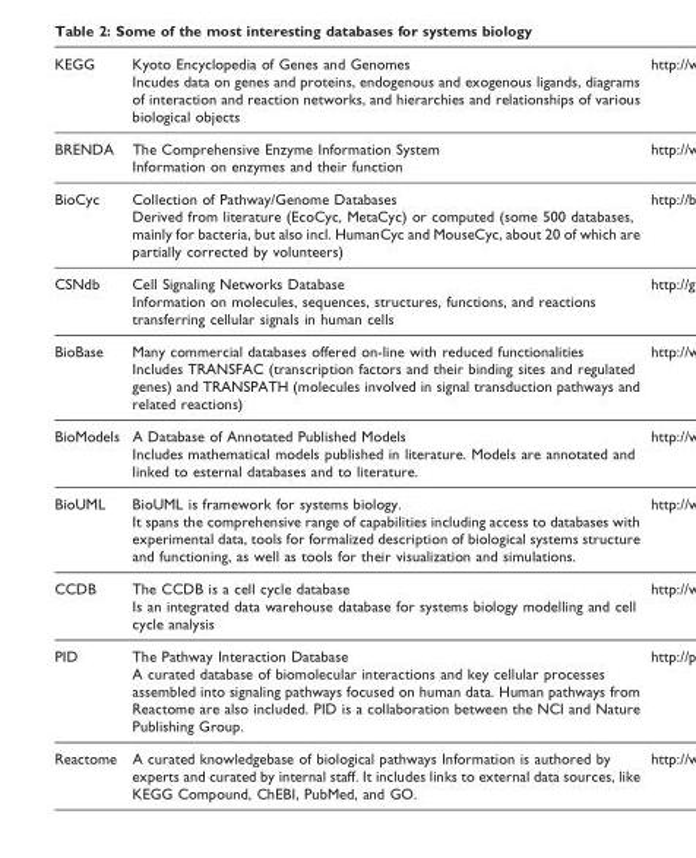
<table><thead><tr><td>KEGG</td><td>Kyoto Encyclopedia of Genes and Genomes Incudes data on genes and proteins, endogenous and exogenous ligands, diagrams of interaction and reaction networks, and hierarchies and relationships of various biological objects</td></tr></thead><tbody><tr><td>BRENDA</td><td>The Comprehensive Enzyme Information System Information on enzymes and their function</td></tr><tr><td>BioCyc</td><td>Collection of Pathway/Genome Databases Derived from literature (EcoCyc, MetaCyc) or computed (some 500 databases, maìnly for bacteria, but also incl. HumanCyc and MouseCyc, about 20 of which are partially corrected by volunteers)</td></tr><tr><td>CSNdb</td><td>Cell Signaling Networks Database Information on molecules, sequences, structures, functions, and reactions transferring cellular signals in human cells</td></tr><tr><td>BioBase</td><td>Many commercial databases offered on-line with reduced functionalities Includes TRANSFAC (transcription factors and their binding sites and regulated genes) and TRANSPATH (molecules involved in signal transduction pathways and related reactions)</td></tr><tr><td>BioModels</td><td>A Database of Annotated Published Models Includes mathematical models published in literature. Models are annotated and linked to esternal databases and to literature.</td></tr><tr><td>BioUML</td><td>BioUML is framework for systems biology. It spans the comprehensive range of capabilities including access to databases with experimental data, tools for formalized description of biological systems structure and functioning, as well as tools for their visualization and simulations.</td></tr><tr><td>CCDB</td><td>The CCDB is a cell cycle database Is an integrated data warehouse database for systems biology modelling and cell cycle analysis</td></tr><tr><td>PID</td><td>The Pathway Interaction Database A curated database of biomolecular interactions and key cellular processes assembled into signaling pathways focused on human data. Human pathways from Reactome are also included. PID is a collaboration between the NCI and Nature Publishing Group.</td></tr><tr><td>Reactome</td><td>A curated knowledgebase of biological pathways Information is authored by experts and curated by internal staff. It includes links to external data sources, like KEGG Compound, ChEBI, PubMed, and GO.</td></tr></tbody></table>